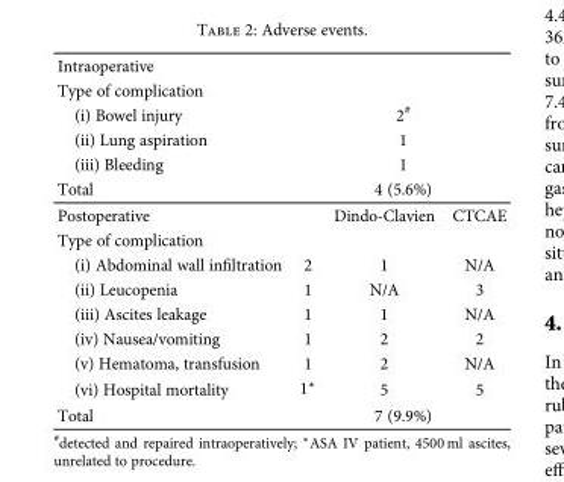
<table><tbody><tr><td colspan="4">Intraoperative</td></tr><tr><td colspan="4">Type of complication</td></tr><tr><td>(i) Bowel injury</td><td colspan="3">2<sup>#</sup></td></tr><tr><td>(ii) Lung aspiration</td><td colspan="3">1</td></tr><tr><td>(iii) Bleeding</td><td colspan="3">1</td></tr><tr><td>Total</td><td colspan="3">4 (5.6%)</td></tr><tr><td colspan="2">Postoperative</td><td>Dindo-Clavien</td><td>CTCAE</td></tr><tr><td colspan="4">Type of complication</td></tr><tr><td>(i) Abdominal wall infiltration</td><td>2</td><td>1</td><td>N/A</td></tr><tr><td>(ii) Leucopenia</td><td>1</td><td>N/A</td><td>3</td></tr><tr><td>(iii) Ascites leakage</td><td>1</td><td>1</td><td>N/A</td></tr><tr><td>(iv) Nausea/vomiting</td><td>1</td><td>2</td><td>2</td></tr><tr><td>(v) Hematoma, transfusion</td><td>1</td><td>2</td><td>N/A</td></tr><tr><td>(vi) Hospital mortality</td><td>1∗</td><td>5</td><td>5</td></tr><tr><td>Total</td><td colspan="3">7 (9.9%)</td></tr></tbody></table>